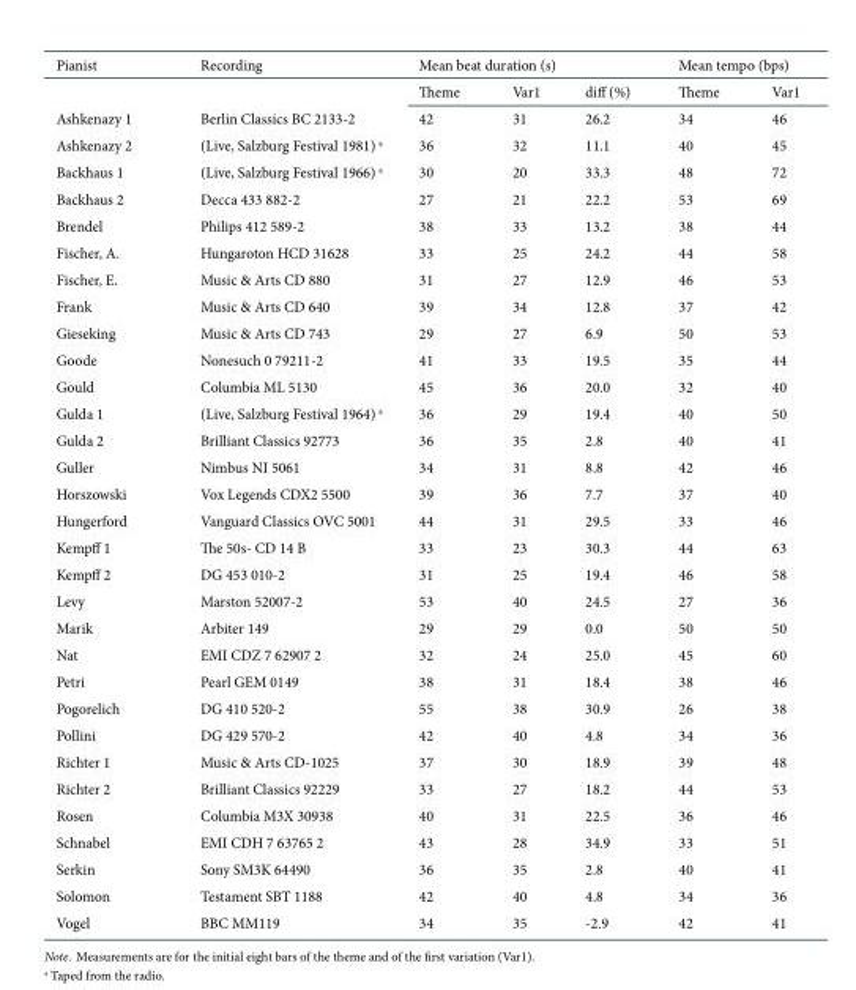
<table><thead><tr><td rowspan="2">Pianist</td><td rowspan="2">Recording</td><td colspan="2">Mean beat duration (s)</td><td rowspan="2">diff (%)</td><td colspan="2">Mean tempo (bps)</td></tr><tr><td>Theme</td><td>Var1</td><td>Theme</td><td>Var1</td></tr></thead><tbody><tr><td>Ashkenazy 1</td><td>Berlin Classics BC 2133-2</td><td>42</td><td>31</td><td>26.2</td><td>34</td><td>46</td></tr><tr><td>Ashkenazy 2</td><td>(Live, Salzburg Festival 1981) a</td><td>36</td><td>32</td><td>11.1</td><td>40</td><td>45</td></tr><tr><td>Backhaus 1</td><td>(Live, Salzburg Festival 1966) a</td><td>30</td><td>20</td><td>33.3</td><td>48</td><td>72</td></tr><tr><td>Backhaus 2</td><td>Decca 433 882-2</td><td>27</td><td>21</td><td>22.2</td><td>53</td><td>69</td></tr><tr><td>Brendel</td><td>Philips 412 589-2</td><td>38</td><td>33</td><td>13.2</td><td>38</td><td>44</td></tr><tr><td>Fischer, A.</td><td>Hungaroton HCD 31628</td><td>33</td><td>25</td><td>24.2</td><td>44</td><td>58</td></tr><tr><td>Fischer, E.</td><td>Music &amp; Arts CD 880</td><td>31</td><td>27</td><td>12.9</td><td>46</td><td>53</td></tr><tr><td>Frank</td><td>Music &amp; Arts CD 640</td><td>39</td><td>34</td><td>12.8</td><td>37</td><td>42</td></tr><tr><td>Gieseking</td><td>Music &amp; Arts CD 743</td><td>29</td><td>27</td><td>6.9</td><td>50</td><td>53</td></tr><tr><td>Goode</td><td>Nonesuch 0 79211-2</td><td>41</td><td>33</td><td>19.5</td><td>35</td><td>44</td></tr><tr><td>Gould</td><td>Columbia ML 5130</td><td>45</td><td>36</td><td>20.0</td><td>32</td><td>40</td></tr><tr><td>Gulda 1</td><td>(Live, Salzburg Festival 1964) a</td><td>36</td><td>29</td><td>19.4</td><td>40</td><td>50</td></tr><tr><td>Gulda 2</td><td>Brilliant Classics 92773</td><td>36</td><td>35</td><td>2.8</td><td>40</td><td>41</td></tr><tr><td>Guller</td><td>Nimbus NI 5061</td><td>34</td><td>31</td><td>8.8</td><td>42</td><td>46</td></tr><tr><td>Horszowski</td><td>Vox Legends CDX2 5500</td><td>39</td><td>36</td><td>7.7</td><td>37</td><td>40</td></tr><tr><td>Hungerford</td><td>Vanguard Classics OVC 5001</td><td>44</td><td>31</td><td>29.5</td><td>33</td><td>46</td></tr><tr><td>Kempff 1</td><td>The 50s- CD 14 B</td><td>33</td><td>23</td><td>30.3</td><td>44</td><td>63</td></tr><tr><td>Kempff 2</td><td>DG 453 010-2</td><td>31</td><td>25</td><td>19.4</td><td>46</td><td>58</td></tr><tr><td>Levy</td><td>Marston 52007-2</td><td>53</td><td>40</td><td>24.5</td><td>27</td><td>36</td></tr><tr><td>Marik</td><td>Arbiter 149</td><td>29</td><td>29</td><td>0.0</td><td>50</td><td>50</td></tr><tr><td>Nat</td><td>EMI CDZ 7 62907 2</td><td>32</td><td>24</td><td>25.0</td><td>45</td><td>60</td></tr><tr><td>Petri</td><td>Pearl GEM 0149</td><td>38</td><td>31</td><td>18.4</td><td>38</td><td>46</td></tr><tr><td>Pogorelich</td><td>DG 410 520-2</td><td>55</td><td>38</td><td>30.9</td><td>26</td><td>38</td></tr><tr><td>Pollini</td><td>DG 429 570-2</td><td>42</td><td>40</td><td>4.8</td><td>34</td><td>36</td></tr><tr><td>Richter 1</td><td>Music &amp; Arts CD-1025</td><td>37</td><td>30</td><td>18.9</td><td>39</td><td>48</td></tr><tr><td>Richter 2</td><td>Brilliant Classics 92229</td><td>33</td><td>27</td><td>18.2</td><td>44</td><td>53</td></tr><tr><td>Rosen</td><td>Columbia M3X 30938</td><td>40</td><td>31</td><td>22.5</td><td>36</td><td>46</td></tr><tr><td>Schnabel</td><td>EMI CDH 7 63765 2</td><td>43</td><td>28</td><td>34.9</td><td>33</td><td>51</td></tr><tr><td>Serkin</td><td>Sony SM3K 64490</td><td>36</td><td>35</td><td>2.8</td><td>40</td><td>41</td></tr><tr><td>Solomon</td><td>Testament SBT 1188</td><td>42</td><td>40</td><td>4.8</td><td>34</td><td>36</td></tr><tr><td>Vogel</td><td>BBC MM119</td><td>34</td><td>35</td><td>-2.9</td><td>42</td><td>41</td></tr></tbody></table>